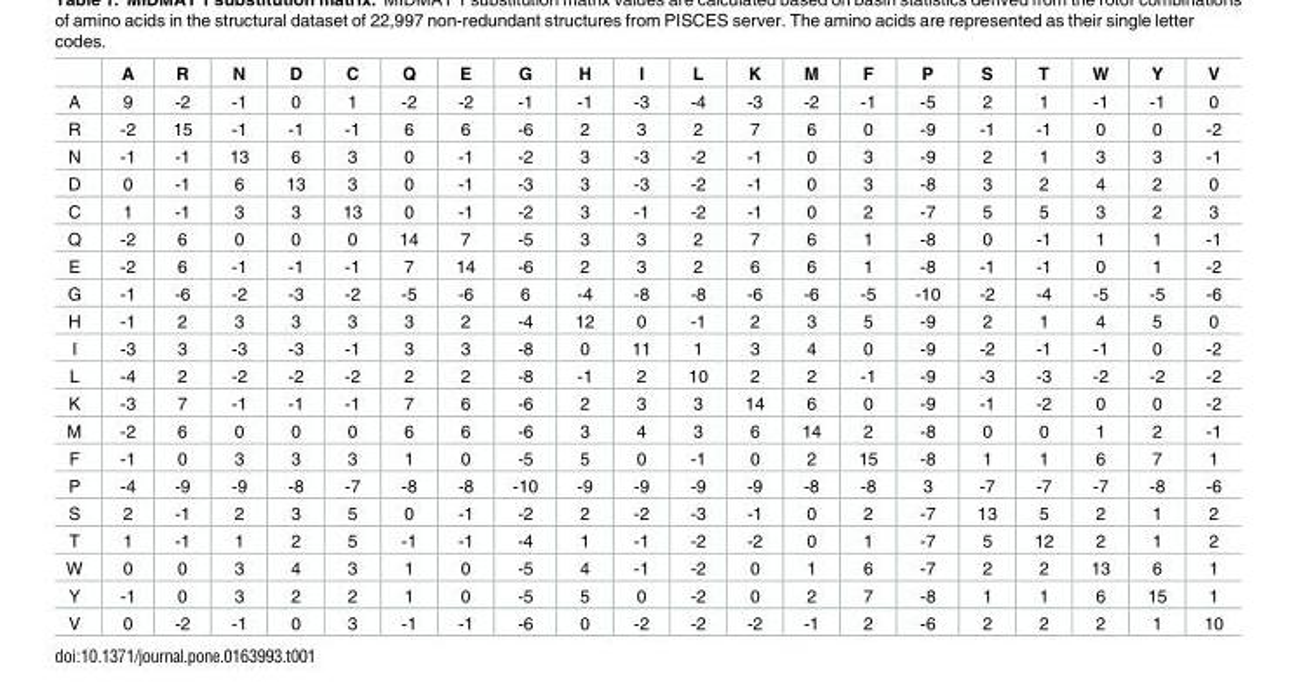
<table><thead><tr><td></td><td>A</td><td>R</td><td>N</td><td>D</td><td>C</td><td>Q</td><td>E</td><td>G</td><td>H</td><td>I</td><td>L</td><td>K</td><td>M</td><td>F</td><td>P</td><td>S</td><td>T</td><td>W</td><td>Y</td><td>V</td></tr></thead><tbody><tr><td>A</td><td>9</td><td>-2</td><td>-1</td><td>0</td><td>1</td><td>-2</td><td>-2</td><td>-1</td><td>-1</td><td>-3</td><td>-4</td><td>-3</td><td>-2</td><td>-1</td><td>-5</td><td>2</td><td>1</td><td>-1</td><td>-1</td><td>0</td></tr><tr><td>R</td><td>-2</td><td>15</td><td>-1</td><td>-1</td><td>-1</td><td>6</td><td>6</td><td>-6</td><td>2</td><td>3</td><td>2</td><td>7</td><td>6</td><td>0</td><td>-9</td><td>-1</td><td>-1</td><td>0</td><td>0</td><td>-2</td></tr><tr><td>N</td><td>-1</td><td>-1</td><td>13</td><td>6</td><td>3</td><td>0</td><td>-1</td><td>-2</td><td>3</td><td>-3</td><td>-2</td><td>-1</td><td>0</td><td>3</td><td>-9</td><td>2</td><td>1</td><td>3</td><td>3</td><td>-1</td></tr><tr><td>D</td><td>0</td><td>-1</td><td>6</td><td>13</td><td>3</td><td>0</td><td>-1</td><td>-3</td><td>3</td><td>-3</td><td>-2</td><td>-1</td><td>0</td><td>3</td><td>-8</td><td>3</td><td>2</td><td>4</td><td>2</td><td>0</td></tr><tr><td>C</td><td>1</td><td>-1</td><td>3</td><td>3</td><td>13</td><td>0</td><td>-1</td><td>-2</td><td>3</td><td>-1</td><td>-2</td><td>-1</td><td>0</td><td>2</td><td>-7</td><td>5</td><td>5</td><td>3</td><td>2</td><td>3</td></tr><tr><td>Q</td><td>-2</td><td>6</td><td>0</td><td>0</td><td>0</td><td>14</td><td>7</td><td>-5</td><td>3</td><td>3</td><td>2</td><td>7</td><td>6</td><td>1</td><td>-8</td><td>0</td><td>-1</td><td>1</td><td>1</td><td>-1</td></tr><tr><td>E</td><td>-2</td><td>6</td><td>-1</td><td>-1</td><td>-1</td><td>7</td><td>14</td><td>-6</td><td>2</td><td>3</td><td>2</td><td>6</td><td>6</td><td>1</td><td>-8</td><td>-1</td><td>-1</td><td>0</td><td>1</td><td>-2</td></tr><tr><td>G</td><td>-1</td><td>-6</td><td>-2</td><td>-3</td><td>-2</td><td>-5</td><td>-6</td><td>6</td><td>-4</td><td>-8</td><td>-8</td><td>-6</td><td>-6</td><td>-5</td><td>-10</td><td>-2</td><td>-4</td><td>-5</td><td>-5</td><td>-6</td></tr><tr><td>H</td><td>-1</td><td>2</td><td>3</td><td>3</td><td>3</td><td>3</td><td>2</td><td>-4</td><td>12</td><td>0</td><td>-1</td><td>2</td><td>3</td><td>5</td><td>-9</td><td>2</td><td>1</td><td>4</td><td>5</td><td>0</td></tr><tr><td>I</td><td>-3</td><td>3</td><td>-3</td><td>-3</td><td>-1</td><td>3</td><td>3</td><td>-8</td><td>0</td><td>11</td><td>1</td><td>3</td><td>4</td><td>0</td><td>-9</td><td>-2</td><td>-1</td><td>-1</td><td>0</td><td>-2</td></tr><tr><td>L</td><td>-4</td><td>2</td><td>-2</td><td>-2</td><td>-2</td><td>2</td><td>2</td><td>-8</td><td>-1</td><td>2</td><td>10</td><td>2</td><td>2</td><td>-1</td><td>-9</td><td>-3</td><td>-3</td><td>-2</td><td>-2</td><td>-2</td></tr><tr><td>K</td><td>-3</td><td>7</td><td>-1</td><td>-1</td><td>-1</td><td>7</td><td>6</td><td>-6</td><td>2</td><td>3</td><td>3</td><td>14</td><td>6</td><td>0</td><td>-9</td><td>-1</td><td>-2</td><td>0</td><td>0</td><td>-2</td></tr><tr><td>M</td><td>-2</td><td>6</td><td>0</td><td>0</td><td>0</td><td>6</td><td>6</td><td>-6</td><td>3</td><td>4</td><td>3</td><td>6</td><td>14</td><td>2</td><td>-8</td><td>0</td><td>0</td><td>1</td><td>2</td><td>-1</td></tr><tr><td>F</td><td>-1</td><td>0</td><td>3</td><td>3</td><td>3</td><td>1</td><td>0</td><td>-5</td><td>5</td><td>0</td><td>-1</td><td>0</td><td>2</td><td>15</td><td>-8</td><td>1</td><td>1</td><td>6</td><td>7</td><td>1</td></tr><tr><td>P</td><td>-4</td><td>-9</td><td>-9</td><td>-8</td><td>-7</td><td>-8</td><td>-8</td><td>-10</td><td>-9</td><td>-9</td><td>-9</td><td>-9</td><td>-8</td><td>-8</td><td>3</td><td>-7</td><td>-7</td><td>-7</td><td>-8</td><td>-6</td></tr><tr><td>S</td><td>2</td><td>-1</td><td>2</td><td>3</td><td>5</td><td>0</td><td>-1</td><td>-2</td><td>2</td><td>-2</td><td>-3</td><td>-1</td><td>0</td><td>2</td><td>-7</td><td>13</td><td>5</td><td>2</td><td>1</td><td>2</td></tr><tr><td>T</td><td>1</td><td>-1</td><td>1</td><td>2</td><td>5</td><td>-1</td><td>-1</td><td>-4</td><td>1</td><td>-1</td><td>-2</td><td>-2</td><td>0</td><td>1</td><td>-7</td><td>5</td><td>12</td><td>2</td><td>1</td><td>2</td></tr><tr><td>W</td><td>0</td><td>0</td><td>3</td><td>4</td><td>3</td><td>1</td><td>0</td><td>-5</td><td>4</td><td>-1</td><td>-2</td><td>0</td><td>1</td><td>6</td><td>-7</td><td>2</td><td>2</td><td>13</td><td>6</td><td>1</td></tr><tr><td>Y</td><td>-1</td><td>0</td><td>3</td><td>2</td><td>2</td><td>1</td><td>0</td><td>-5</td><td>5</td><td>0</td><td>-2</td><td>0</td><td>2</td><td>7</td><td>-8</td><td>1</td><td>1</td><td>6</td><td>15</td><td>1</td></tr><tr><td>V</td><td>0</td><td>-2</td><td>-1</td><td>0</td><td>3</td><td>-1</td><td>-1</td><td>-6</td><td>0</td><td>-2</td><td>-2</td><td>-2</td><td>-1</td><td>2</td><td>-6</td><td>2</td><td>2</td><td>2</td><td>1</td><td>10</td></tr></tbody></table>